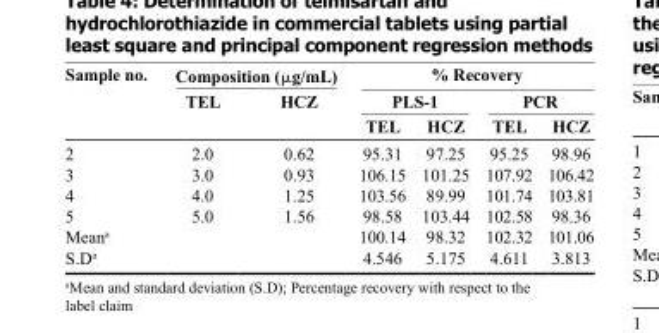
<table><thead><tr><td rowspan="3">Sample no.</td><td colspan="2">Composition (μg/mL)</td><td colspan="4">% Recovery</td></tr><tr><td rowspan="2">TEL</td><td rowspan="2">HCZ</td><td colspan="2">PLS-1</td><td colspan="2">PCR</td></tr><tr><td>TEL</td><td>HCZ</td><td>TEL</td><td>HCZ</td></tr></thead><tbody><tr><td>2</td><td>2.0</td><td>0.62</td><td>95.31</td><td>97.25</td><td>95.25</td><td>98.96</td></tr><tr><td>3</td><td>3.0</td><td>0.93</td><td>106.15</td><td>101.25</td><td>107.92</td><td>106.42</td></tr><tr><td>4</td><td>4.0</td><td>1.25</td><td>103.56</td><td>89.99</td><td>101.74</td><td>103.81</td></tr><tr><td>5</td><td>5.0</td><td>1.56</td><td>98.58</td><td>103.44</td><td>102.58</td><td>98.36</td></tr><tr><td>Mean<sup>a</sup></td><td></td><td></td><td>100.14</td><td>98.32</td><td>102.32</td><td>101.06</td></tr><tr><td>S.D<sup>a</sup></td><td></td><td></td><td>4.546</td><td>5.175</td><td>4.611</td><td>3.813</td></tr></tbody></table>